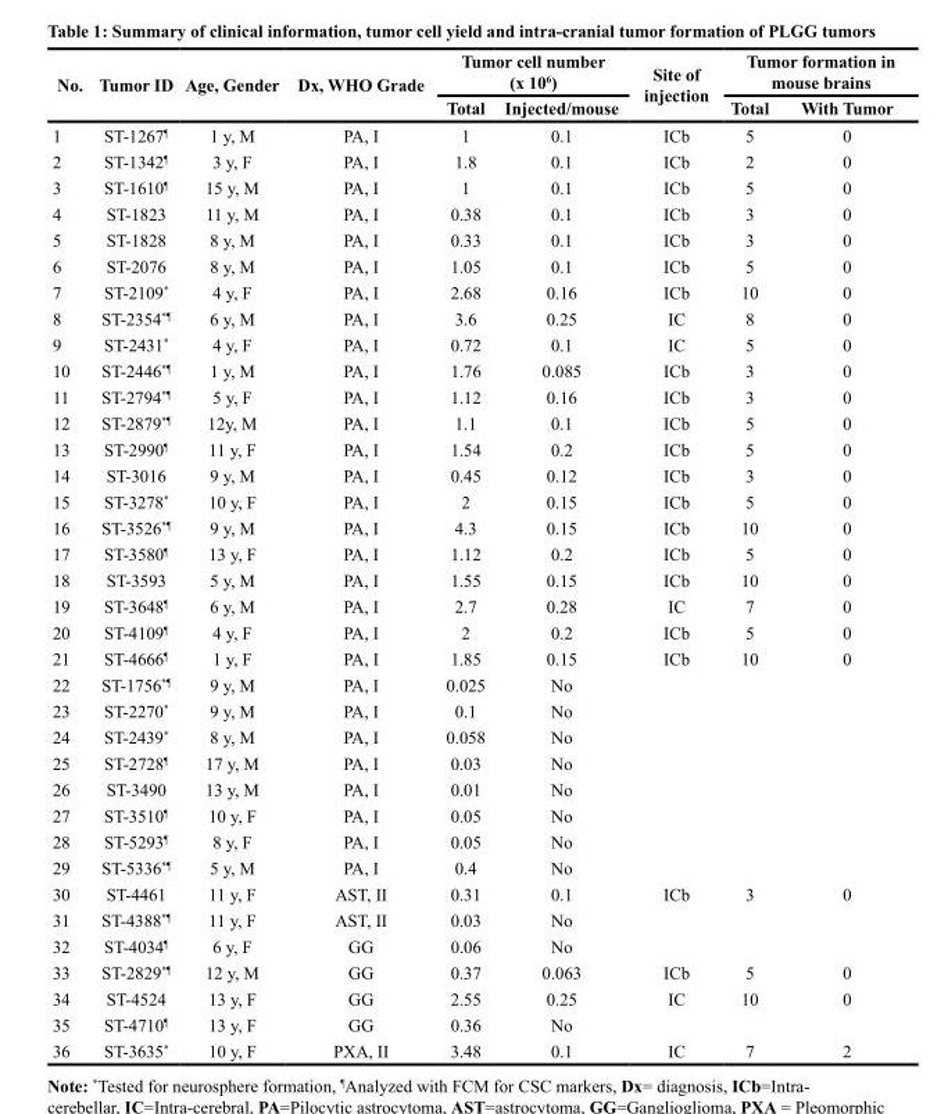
<table><thead><tr><td rowspan="2">No.</td><td rowspan="2">Tumor ID</td><td rowspan="2">Age, Gender</td><td rowspan="2">Dx, WHO Grade</td><td colspan="2">Tumor cell number (x 10<sup>6</sup>)</td><td rowspan="2">Site of injection</td><td colspan="2">Tumor formation in mouse brains</td></tr><tr><td>Total</td><td>Injected/mouse</td><td>Total</td><td>With Tumor</td></tr></thead><tbody><tr><td>1</td><td>ST-1267<sup>¶</sup></td><td>1 y, M</td><td>PA, I</td><td>1</td><td>0.1</td><td>ICb</td><td>5</td><td>0</td></tr><tr><td>2</td><td>ST-1342<sup>¶</sup></td><td>3 y, F</td><td>PA, I</td><td>1.8</td><td>0.1</td><td>ICb</td><td>2</td><td>0</td></tr><tr><td>3</td><td>ST-1610<sup>¶</sup></td><td>15 y, M</td><td>PA, I</td><td>1</td><td>0.1</td><td>ICb</td><td>5</td><td>0</td></tr><tr><td>4</td><td>ST-1823</td><td>11 y, M</td><td>PA, I</td><td>0.38</td><td>0.1</td><td>ICb</td><td>3</td><td>0</td></tr><tr><td>5</td><td>ST-1828</td><td>8 y, M</td><td>PA, I</td><td>0.33</td><td>0.1</td><td>ICb</td><td>3</td><td>0</td></tr><tr><td>6</td><td>ST-2076</td><td>8 y, M</td><td>PA, I</td><td>1.05</td><td>0.1</td><td>ICb</td><td>5</td><td>0</td></tr><tr><td>7</td><td>ST-2109*</td><td>4 y, F</td><td>PA, I</td><td>2.68</td><td>0.16</td><td>ICb</td><td>10</td><td>0</td></tr><tr><td>8</td><td>ST-2354<sup>*¶</sup></td><td>6 y, M</td><td>PA, I</td><td>3.6</td><td>0.25</td><td>IC</td><td>8</td><td>0</td></tr><tr><td>9</td><td>ST-2431*</td><td>4 y, F</td><td>PA, I</td><td>0.72</td><td>0.1</td><td>IC</td><td>5</td><td>0</td></tr><tr><td>10</td><td>ST-2446<sup>*¶</sup></td><td>1 y, M</td><td>PA, I</td><td>1.76</td><td>0.085</td><td>ICb</td><td>3</td><td>0</td></tr><tr><td>11</td><td>ST-2794<sup>*¶</sup></td><td>5 y, F</td><td>PA, I</td><td>1.12</td><td>0.16</td><td>ICb</td><td>3</td><td>0</td></tr><tr><td>12</td><td>ST-2879<sup>*¶</sup></td><td>12y, M</td><td>PA, I</td><td>1.1</td><td>0.1</td><td>ICb</td><td>5</td><td>0</td></tr><tr><td>13</td><td>ST-2990<sup>¶</sup></td><td>11 y, F</td><td>PA, I</td><td>1.54</td><td>0.2</td><td>ICb</td><td>5</td><td>0</td></tr><tr><td>14</td><td>ST-3016</td><td>9 y, M</td><td>PA, I</td><td>0.45</td><td>0.12</td><td>ICb</td><td>3</td><td>0</td></tr><tr><td>15</td><td>ST-3278*</td><td>10 y, F</td><td>PA, I</td><td>2</td><td>0.15</td><td>ICb</td><td>5</td><td>0</td></tr><tr><td>16</td><td>ST-3526<sup>*¶</sup></td><td>9 y, M</td><td>PA, I</td><td>4.3</td><td>0.15</td><td>ICb</td><td>10</td><td>0</td></tr><tr><td>17</td><td>ST-3580<sup>¶</sup></td><td>13 y, F</td><td>PA, I</td><td>1.12</td><td>0.2</td><td>ICb</td><td>5</td><td>0</td></tr><tr><td>18</td><td>ST-3593</td><td>5 y, M</td><td>PA, I</td><td>1.55</td><td>0.15</td><td>ICb</td><td>10</td><td>0</td></tr><tr><td>19</td><td>ST-3648<sup>¶</sup></td><td>6 y, M</td><td>PA, I</td><td>2.7</td><td>0.28</td><td>IC</td><td>7</td><td>0</td></tr><tr><td>20</td><td>ST-4109<sup>¶</sup></td><td>4 y, F</td><td>PA, I</td><td>2</td><td>0.2</td><td>ICb</td><td>5</td><td>0</td></tr><tr><td>21</td><td>ST-4666<sup>¶</sup></td><td>1 y, F</td><td>PA, I</td><td>1.85</td><td>0.15</td><td>ICb</td><td>10</td><td>0</td></tr><tr><td>22</td><td>ST-1756<sup>*¶</sup></td><td>9 y, M</td><td>PA, I</td><td>0.025</td><td>No</td><td></td><td></td><td></td></tr><tr><td>23</td><td>ST-2270*</td><td>9 y, M</td><td>PA, I</td><td>0.1</td><td>No</td><td></td><td></td><td></td></tr><tr><td>24</td><td>ST-2439*</td><td>8 y, M</td><td>PA, I</td><td>0.058</td><td>No</td><td></td><td></td><td></td></tr><tr><td>25</td><td>ST-2728<sup>¶</sup></td><td>17 y, M</td><td>PA, I</td><td>0.03</td><td>No</td><td></td><td></td><td></td></tr><tr><td>26</td><td>ST-3490</td><td>13 y, M</td><td>PA, I</td><td>0.01</td><td>No</td><td></td><td></td><td></td></tr><tr><td>27</td><td>ST-3510<sup>¶</sup></td><td>10 y, F</td><td>PA, I</td><td>0.05</td><td>No</td><td></td><td></td><td></td></tr><tr><td>28</td><td>ST-5293<sup>¶</sup></td><td>8 y, F</td><td>PA, I</td><td>0.05</td><td>No</td><td></td><td></td><td></td></tr><tr><td>29</td><td>ST-5336<sup>*¶</sup></td><td>5 y, M</td><td>PA, I</td><td>0.4</td><td>No</td><td></td><td></td><td></td></tr><tr><td>30</td><td>ST-4461</td><td>11 y, F</td><td>AST, II</td><td>0.31</td><td>0.1</td><td>ICb</td><td>3</td><td>0</td></tr><tr><td>31</td><td>ST-4388<sup>*¶</sup></td><td>11 y, F</td><td>AST, II</td><td>0.03</td><td>No</td><td></td><td></td><td></td></tr><tr><td>32</td><td>ST-4034<sup>¶</sup></td><td>6 y, F</td><td>GG</td><td>0.06</td><td>No</td><td></td><td></td><td></td></tr><tr><td>33</td><td>ST-2829<sup>*¶</sup></td><td>12 y, M</td><td>GG</td><td>0.37</td><td>0.063</td><td>ICb</td><td>5</td><td>0</td></tr><tr><td>34</td><td>ST-4524</td><td>13 y, F</td><td>GG</td><td>2.55</td><td>0.25</td><td>IC</td><td>10</td><td>0</td></tr><tr><td>35</td><td>ST-4710<sup>¶</sup></td><td>13 y, F</td><td>GG</td><td>0.36</td><td>No</td><td></td><td></td><td></td></tr><tr><td>36</td><td>ST-3635*</td><td>10 y, F</td><td>PXA, II</td><td>3.48</td><td>0.1</td><td>IC</td><td>7</td><td>2</td></tr></tbody></table>